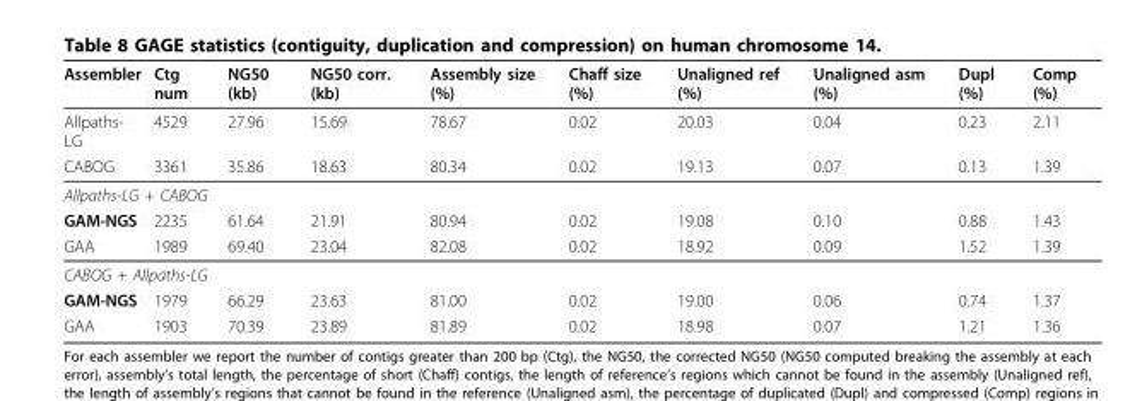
<table><thead><tr><td>Assembler</td><td>Ctg num</td><td>NG50 (kb)</td><td>NG50 corr. (kb)</td><td>Assembly size (%)</td><td>Chaff size (%)</td><td>Unaligned ref (%)</td><td>Unaligned asm (%)</td><td>Dupl (%)</td><td>Comp (%)</td></tr></thead><tbody><tr><td>Allpaths- LG</td><td>4529</td><td>27.96</td><td>15.69</td><td>78.67</td><td>0.02</td><td>20.03</td><td>0.04</td><td>0.23</td><td>2.11</td></tr><tr><td>CABOG</td><td>3361</td><td>35.86</td><td>18.63</td><td>80.34</td><td>0.02</td><td>19.13</td><td>0.07</td><td>0.13</td><td>1.39</td></tr><tr><td colspan="10">Allpaths-LG + CABOG</td></tr><tr><td>GAM-NGS</td><td>2235</td><td>61.64</td><td>21.91</td><td>80.94</td><td>0.02</td><td>19.08</td><td>0.10</td><td>0.88</td><td>1.43</td></tr><tr><td>GAA</td><td>1989</td><td>69.40</td><td>23.04</td><td>82.08</td><td>0.02</td><td>18.92</td><td>0.09</td><td>1.52</td><td>1.39</td></tr><tr><td colspan="10">CABOG + Allpaths-LG</td></tr><tr><td>GAM-NGS</td><td>1979</td><td>66.29</td><td>23.63</td><td>81.00</td><td>0.02</td><td>19.00</td><td>0.06</td><td>0.74</td><td>1.37</td></tr><tr><td>GAA</td><td>1903</td><td>70.39</td><td>23.89</td><td>81.89</td><td>0.02</td><td>18.98</td><td>0.07</td><td>1.21</td><td>1.36</td></tr></tbody></table>